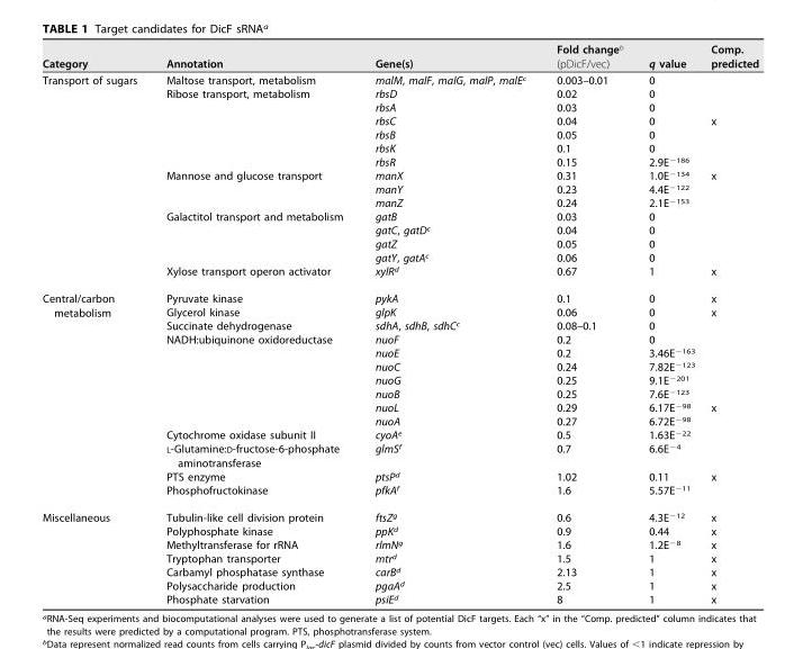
<table><thead><tr><td>Category</td><td>Annotation</td><td>Gene(s)</td><td>Fold change<sup>b</sup> (pDicF/vec)</td><td>q value</td><td>Comp. predicted</td></tr></thead><tbody><tr><td rowspan="15">Transport of sugars</td><td>Maltose transport, metabolism</td><td>malM, malF, malG, malP, malE<sup>c</sup></td><td>0.003–0.01</td><td>0</td><td></td></tr><tr><td rowspan="6">Ribose transport, metabolism</td><td>rbsD</td><td>0.02</td><td>0</td><td></td></tr><tr><td>rbsA</td><td>0.03</td><td>0</td><td></td></tr><tr><td>rbsC</td><td>0.04</td><td>0</td><td>x</td></tr><tr><td>rbsB</td><td>0.05</td><td>0</td><td></td></tr><tr><td>rbsK</td><td>0.1</td><td>0</td><td></td></tr><tr><td>rbsR</td><td>0.15</td><td>2.9E<sup>−186</sup></td><td></td></tr><tr><td rowspan="3">Mannose and glucose transport</td><td>manX</td><td>0.31</td><td>1.0E<sup>−134</sup></td><td>x</td></tr><tr><td>manY</td><td>0.23</td><td>4.4E<sup>−122</sup></td><td></td></tr><tr><td>manZ</td><td>0.24</td><td>2.1E<sup>−153</sup></td><td></td></tr><tr><td rowspan="4">Galactitol transport and metabolism</td><td>gatB</td><td>0.03</td><td>0</td><td></td></tr><tr><td>gatC, gatD<sup>c</sup></td><td>0.04</td><td>0</td><td></td></tr><tr><td>gatZ</td><td>0.05</td><td>0</td><td></td></tr><tr><td>gatY, gatA<sup>c</sup></td><td>0.06</td><td>0</td><td></td></tr><tr><td>Xylose transport operon activator</td><td>xylR<sup>d</sup></td><td>0.67</td><td>1</td><td>x</td></tr><tr><td rowspan="14">Central/carbon metabolism</td><td>Pyruvate kinase</td><td>pykA</td><td>0.1</td><td>0</td><td>x</td></tr><tr><td>Glycerol kinase</td><td>glpK</td><td>0.06</td><td>0</td><td>x</td></tr><tr><td>Succinate dehydrogenase</td><td>sdhA, sdhB, sdhC<sup>c</sup></td><td>0.08–0.1</td><td>0</td><td></td></tr><tr><td rowspan="7">NADH:ubiquinone oxidoreductase</td><td>nuoF</td><td>0.2</td><td>0</td><td></td></tr><tr><td>nuoE</td><td>0.2</td><td>3.46E<sup>−163</sup></td><td></td></tr><tr><td>nuoC</td><td>0.24</td><td>7.82E<sup>−123</sup></td><td></td></tr><tr><td>nuoG</td><td>0.25</td><td>9.1E<sup>−201</sup></td><td></td></tr><tr><td>nuoB</td><td>0.25</td><td>7.6E<sup>−123</sup></td><td></td></tr><tr><td>nuoL</td><td>0.29</td><td>6.17E<sup>−98</sup></td><td>x</td></tr><tr><td>nuoA</td><td>0.27</td><td>6.72E<sup>−98</sup></td><td></td></tr><tr><td>Cytochrome oxidase subunit II</td><td>cyoA<sup>e</sup></td><td>0.5</td><td>1.63E<sup>−22</sup></td><td></td></tr><tr><td>L-Glutamine:D-fructose-6-phosphate aminotransferase</td><td>glmS<sup>f</sup></td><td>0.7</td><td>6.6E<sup>−4</sup></td><td></td></tr><tr><td>PTS enzyme</td><td>ptsP<sup>d</sup></td><td>1.02</td><td>0.11</td><td>x</td></tr><tr><td>Phosphofructokinase</td><td>pfkA<sup>f</sup></td><td>1.6</td><td>5.57E<sup>−11</sup></td><td></td></tr><tr><td rowspan="7">Miscellaneous</td><td>Tubulin-like cell division protein</td><td>ftsZ<sup>g</sup></td><td>0.6</td><td>4.3E<sup>−12</sup></td><td>x</td></tr><tr><td>Polyphosphate kinase</td><td>ppK<sup>d</sup></td><td>0.9</td><td>0.44</td><td>x</td></tr><tr><td>Methyltransferase for rRNA</td><td>rlmN<sup>g</sup></td><td>1.6</td><td>1.2E<sup>−8</sup></td><td>x</td></tr><tr><td>Tryptophan transporter</td><td>mtr<sup>d</sup></td><td>1.5</td><td>1</td><td>x</td></tr><tr><td>Carbamyl phosphatase synthase</td><td>carB<sup>d</sup></td><td>2.13</td><td>1</td><td>x</td></tr><tr><td>Polysaccharide production</td><td>pgaA<sup>d</sup></td><td>2.5</td><td>1</td><td>x</td></tr><tr><td>Phosphate starvation</td><td>psiE<sup>d</sup></td><td>8</td><td>1</td><td>x</td></tr></tbody></table>